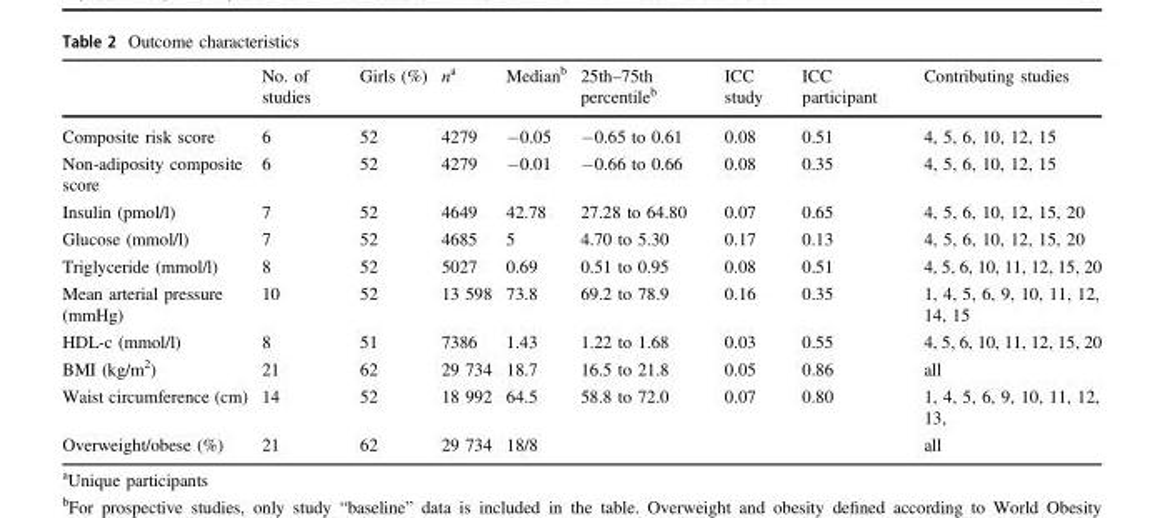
<table><thead><tr><td></td><td>No. of studies</td><td>Girls (%)</td><td>n<sup>a</sup></td><td>Median<sup>b</sup></td><td>25th–75th percentile<sup>b</sup></td><td>ICC study</td><td>ICC participant</td><td>Contributing studies</td></tr></thead><tbody><tr><td>Composite risk score</td><td>6</td><td>52</td><td>4279</td><td>−0.05</td><td>−0.65 to 0.61</td><td>0.08</td><td>0.51</td><td>4, 5, 6, 10, 12, 15</td></tr><tr><td>Non-adiposity composite score</td><td>6</td><td>52</td><td>4279</td><td>−0.01</td><td>−0.66 to 0.66</td><td>0.08</td><td>0.35</td><td>4, 5, 6, 10, 12, 15</td></tr><tr><td>Insulin (pmol/l)</td><td>7</td><td>52</td><td>4649</td><td>42.78</td><td>27.28 to 64.80</td><td>0.07</td><td>0.65</td><td>4, 5, 6, 10, 12, 15, 20</td></tr><tr><td>Glucose (mmol/l)</td><td>7</td><td>52</td><td>4685</td><td>5</td><td>4.70 to 5.30</td><td>0.17</td><td>0.13</td><td>4, 5, 6, 10, 12, 15, 20</td></tr><tr><td>Triglyceride (mmol/l)</td><td>8</td><td>52</td><td>5027</td><td>0.69</td><td>0.51 to 0.95</td><td>0.08</td><td>0.51</td><td>4, 5, 6, 10, 11, 12, 15, 20</td></tr><tr><td>Mean arterial pressure (mmHg)</td><td>10</td><td>52</td><td>13 598</td><td>73.8</td><td>69.2 to 78.9</td><td>0.16</td><td>0.35</td><td>1, 4, 5, 6, 9, 10, 11, 12, 14, 15</td></tr><tr><td>HDL-c (mmol/l)</td><td>8</td><td>51</td><td>7386</td><td>1.43</td><td>1.22 to 1.68</td><td>0.03</td><td>0.55</td><td>4, 5, 6, 10, 11, 12, 15, 20</td></tr><tr><td>BMI (kg/m<sup>2</sup>)</td><td>21</td><td>62</td><td>29 734</td><td>18.7</td><td>16.5 to 21.8</td><td>0.05</td><td>0.86</td><td>all</td></tr><tr><td>Waist circumference (cm)</td><td>14</td><td>52</td><td>18 992</td><td>64.5</td><td>58.8 to 72.0</td><td>0.07</td><td>0.80</td><td>1, 4, 5, 6, 9, 10, 11, 12, 13,</td></tr><tr><td>Overweight/obese (%)</td><td>21</td><td>62</td><td>29 734</td><td>18/8</td><td></td><td></td><td></td><td>all</td></tr></tbody></table>